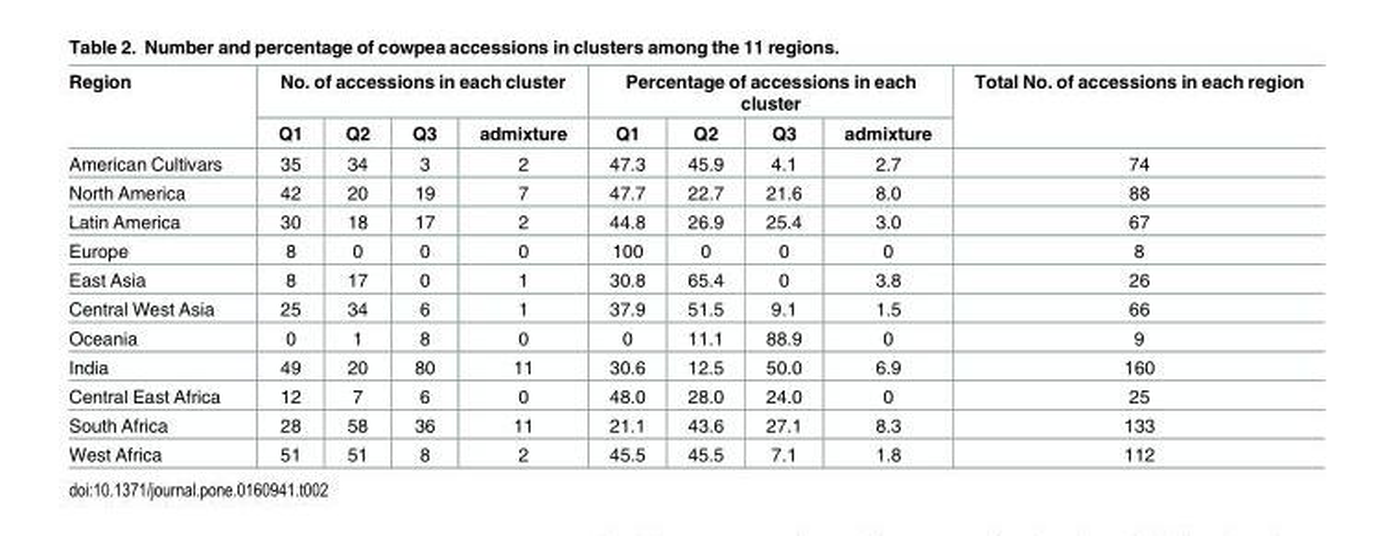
<table><thead><tr><td rowspan="2">Region</td><td colspan="4">No. of accessions in each cluster</td><td colspan="4">Percentage of accessions in each cluster</td><td rowspan="2">Total No. of accessions in each region</td></tr><tr><td>Q1</td><td>Q2</td><td>Q3</td><td>admixture</td><td>Q1</td><td>Q2</td><td>Q3</td><td>admixture</td></tr></thead><tbody><tr><td>American Cultivars</td><td>35</td><td>34</td><td>3</td><td>2</td><td>47.3</td><td>45.9</td><td>4.1</td><td>2.7</td><td>74</td></tr><tr><td>North America</td><td>42</td><td>20</td><td>19</td><td>7</td><td>47.7</td><td>22.7</td><td>21.6</td><td>8.0</td><td>88</td></tr><tr><td>Latin America</td><td>30</td><td>18</td><td>17</td><td>2</td><td>44.8</td><td>26.9</td><td>25.4</td><td>3.0</td><td>67</td></tr><tr><td>Europe</td><td>8</td><td>0</td><td>0</td><td>0</td><td>100</td><td>0</td><td>0</td><td>0</td><td>8</td></tr><tr><td>East Asia</td><td>8</td><td>17</td><td>0</td><td>1</td><td>30.8</td><td>65.4</td><td>0</td><td>3.8</td><td>26</td></tr><tr><td>Central West Asia</td><td>25</td><td>34</td><td>6</td><td>1</td><td>37.9</td><td>51.5</td><td>9.1</td><td>1.5</td><td>66</td></tr><tr><td>Oceania</td><td>0</td><td>1</td><td>8</td><td>0</td><td>0</td><td>11.1</td><td>88.9</td><td>0</td><td>9</td></tr><tr><td>India</td><td>49</td><td>20</td><td>80</td><td>11</td><td>30.6</td><td>12.5</td><td>50.0</td><td>6.9</td><td>160</td></tr><tr><td>Central East Africa</td><td>12</td><td>7</td><td>6</td><td>0</td><td>48.0</td><td>28.0</td><td>24.0</td><td>0</td><td>25</td></tr><tr><td>South Africa</td><td>28</td><td>58</td><td>36</td><td>11</td><td>21.1</td><td>43.6</td><td>27.1</td><td>8.3</td><td>133</td></tr><tr><td>West Africa</td><td>51</td><td>51</td><td>8</td><td>2</td><td>45.5</td><td>45.5</td><td>7.1</td><td>1.8</td><td>112</td></tr></tbody></table>